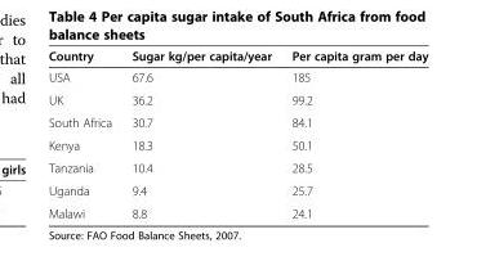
<table><thead><tr><td>Country</td><td>Sugar kg/per capita/year</td><td>Per capita gram per day</td></tr></thead><tbody><tr><td>USA</td><td>67.6</td><td>185</td></tr><tr><td>UK</td><td>36.2</td><td>99.2</td></tr><tr><td>South Africa</td><td>30.7</td><td>84.1</td></tr><tr><td>Kenya</td><td>18.3</td><td>50.1</td></tr><tr><td>Tanzania</td><td>10.4</td><td>28.5</td></tr><tr><td>Uganda</td><td>9.4</td><td>25.7</td></tr><tr><td>Malawi</td><td>8.8</td><td>24.1</td></tr></tbody></table>